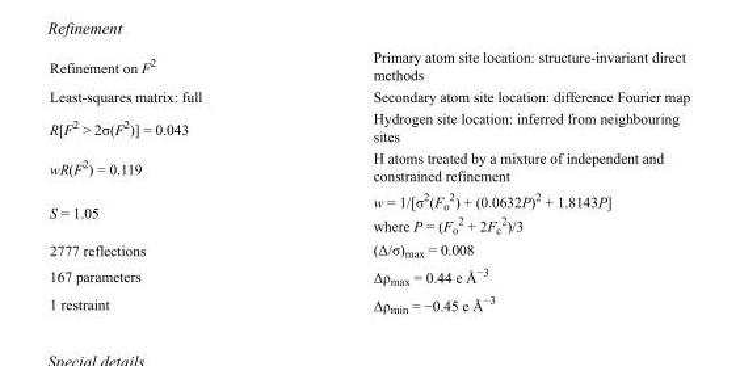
<table><tbody><tr><td>Refinement on F<sup>2</sup></td><td>Primary atom site location: structure-invariant direct methods</td></tr><tr><td>Least-squares matrix: full</td><td>Secondary atom site location: difference Fourier map</td></tr><tr><td>R[F<sup>2</sup> &gt; 2σ(F<sup>2</sup>)] = 0.043</td><td>Hydrogen site location: inferred from neighbouring sites</td></tr><tr><td>wR(F<sup>2</sup>) = 0.119</td><td>H atoms treated by a mixture of independent and constrained refinement</td></tr><tr><td>S = 1.05</td><td>w = 1/[σ<sup>2</sup>(F<sub>o</sub> <sup>2</sup>) + (0.0632P)<sup>2</sup> + 1.8143P] where P = (F<sub>o</sub> <sup>2</sup> + 2F<sub>c</sub> <sup>2</sup>)/3</td></tr><tr><td>2777 reflections</td><td>(Δ/σ)<sub>max</sub> = 0.008</td></tr><tr><td>167 parameters</td><td>Δρ<sub>max</sub> = 0.44 e Å<sup>−3</sup></td></tr><tr><td>1 restraint</td><td>Δρ<sub>min</sub> = −0.45 e Å<sup>−3</sup></td></tr></tbody></table>